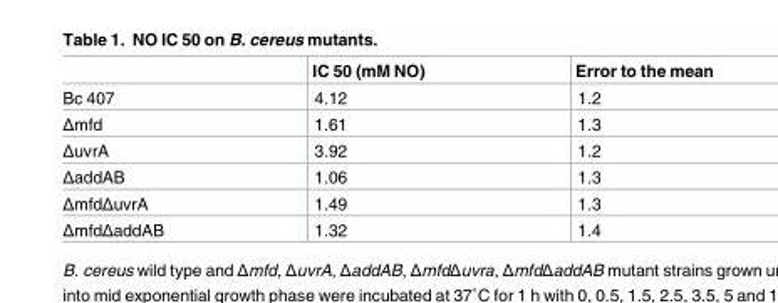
<table><thead><tr><td></td><td>IC 50 (mM NO)</td><td>Error to the mean</td></tr></thead><tbody><tr><td>Bc 407</td><td>4.12</td><td>1.2</td></tr><tr><td>Δmfd</td><td>1.61</td><td>1.3</td></tr><tr><td>ΔuvrA</td><td>3.92</td><td>1.2</td></tr><tr><td>ΔaddAB</td><td>1.06</td><td>1.3</td></tr><tr><td>ΔmfdΔuvrA</td><td>1.49</td><td>1.3</td></tr><tr><td>ΔmfdΔaddAB</td><td>1.32</td><td>1.4</td></tr></tbody></table>